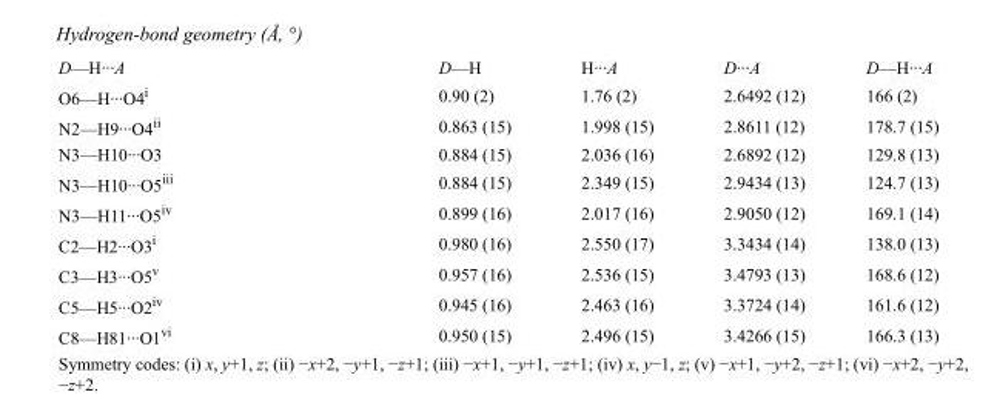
<table><tbody><tr><td>D—H···A</td><td>D—H</td><td>H···A</td><td>D···A</td><td>D—H···A</td></tr><tr><td>O6—H···O4<sup>i</sup></td><td>0.90 (2)</td><td>1.76 (2)</td><td>2.6492 (12)</td><td>166 (2)</td></tr><tr><td>N2—H9···O4<sup>ii</sup></td><td>0.863 (15)</td><td>1.998 (15)</td><td>2.8611 (12)</td><td>178.7 (15)</td></tr><tr><td>N3—H10···O3</td><td>0.884 (15)</td><td>2.036 (16)</td><td>2.6892 (12)</td><td>129.8 (13)</td></tr><tr><td>N3—H10···O5<sup>iii</sup></td><td>0.884 (15)</td><td>2.349 (15)</td><td>2.9434 (13)</td><td>124.7 (13)</td></tr><tr><td>N3—H11···O5<sup>iv</sup></td><td>0.899 (16)</td><td>2.017 (16)</td><td>2.9050 (12)</td><td>169.1 (14)</td></tr><tr><td>C2—H2···O3<sup>i</sup></td><td>0.980 (16)</td><td>2.550 (17)</td><td>3.3434 (14)</td><td>138.0 (13)</td></tr><tr><td>C3—H3···O5<sup>v</sup></td><td>0.957 (16)</td><td>2.536 (15)</td><td>3.4793 (13)</td><td>168.6 (12)</td></tr><tr><td>C5—H5···O2<sup>iv</sup></td><td>0.945 (16)</td><td>2.463 (16)</td><td>3.3724 (14)</td><td>161.6 (12)</td></tr><tr><td>C8—H81···O1<sup>vi</sup></td><td>0.950 (15)</td><td>2.496 (15)</td><td>3.4266 (15)</td><td>166.3 (13)</td></tr></tbody></table>